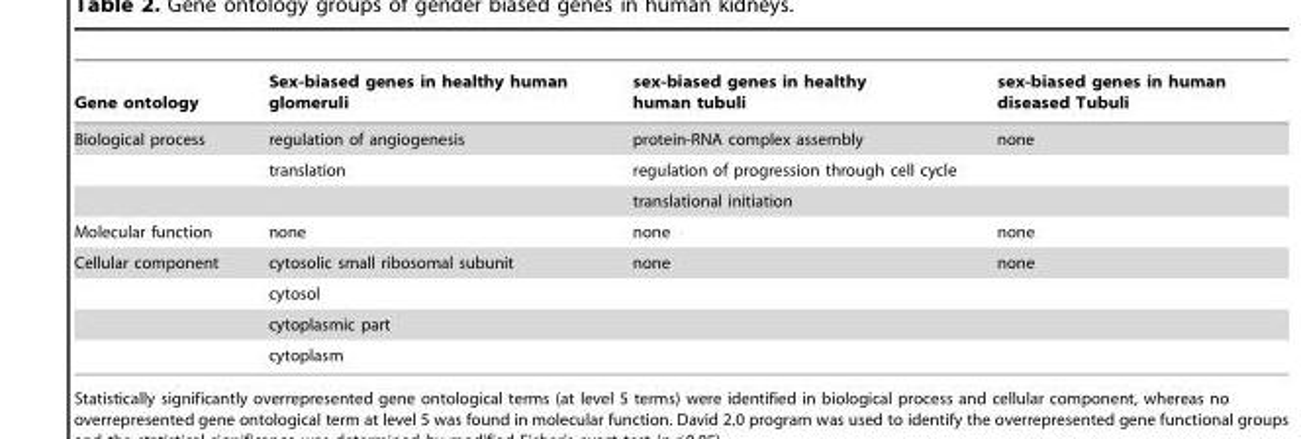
<table><thead><tr><td>Gene ontology</td><td>Sex-biased genes in healthy human glomeruli</td><td>sex-biased genes in healthy human tubuli</td><td>sex-biased genes in human diseased Tubuli</td></tr></thead><tbody><tr><td rowspan="3">Biological process</td><td>regulation of angiogenesis</td><td>protein-RNA complex assembly</td><td>none</td></tr><tr><td>translation</td><td>regulation of progression through cell cycle</td><td></td></tr><tr><td></td><td>translational initiation</td><td></td></tr><tr><td>Molecular function</td><td>none</td><td>none</td><td>none</td></tr><tr><td rowspan="4">Cellular component</td><td>cytosolic small ribosomal subunit</td><td>none</td><td>none</td></tr><tr><td>cytosol</td><td></td><td></td></tr><tr><td>cytoplasmic part</td><td></td><td></td></tr><tr><td>cytoplasm</td><td></td><td></td></tr></tbody></table>